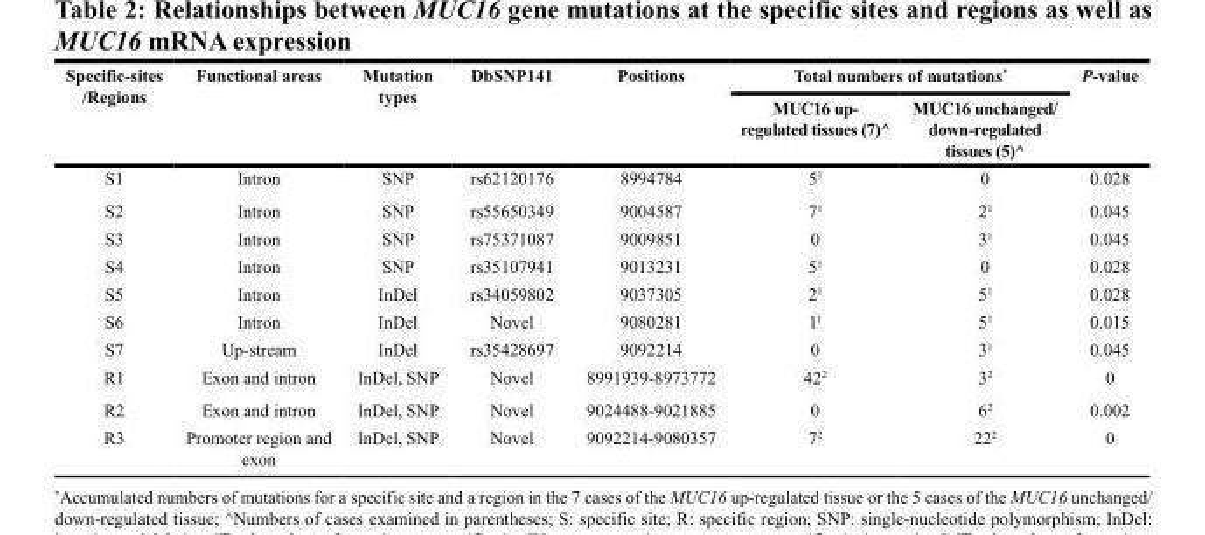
<table><thead><tr><td rowspan="2">Specific-sites /Regions</td><td rowspan="2">Functional areas</td><td rowspan="2">Mutation types</td><td rowspan="2">DbSNP141</td><td rowspan="2">Positions</td><td colspan="2">Total numbers of mutations*</td><td rowspan="2">P-value</td></tr><tr><td>MUC16 up- regulated tissues (7)^</td><td>MUC16 unchanged/ down-regulated tissues (5)^</td></tr></thead><tbody><tr><td>S1</td><td>Intron</td><td>SNP</td><td>rs62120176</td><td>8994784</td><td>5<sup>1</sup></td><td>0</td><td>0.028</td></tr><tr><td>S2</td><td>Intron</td><td>SNP</td><td>rs55650349</td><td>9004587</td><td>7<sup>1</sup></td><td>2<sup>1</sup></td><td>0.045</td></tr><tr><td>S3</td><td>Intron</td><td>SNP</td><td>rs75371087</td><td>9009851</td><td>0</td><td>3<sup>1</sup></td><td>0.045</td></tr><tr><td>S4</td><td>Intron</td><td>SNP</td><td>rs35107941</td><td>9013231</td><td>5<sup>1</sup></td><td>0</td><td>0.028</td></tr><tr><td>S5</td><td>Intron</td><td>InDel</td><td>rs34059802</td><td>9037305</td><td>2<sup>1</sup></td><td>5<sup>1</sup></td><td>0.028</td></tr><tr><td>S6</td><td>Intron</td><td>InDel</td><td>Novel</td><td>9080281</td><td>1<sup>1</sup></td><td>5<sup>1</sup></td><td>0.015</td></tr><tr><td>S7</td><td>Up-stream</td><td>InDel</td><td>rs35428697</td><td>9092214</td><td>0</td><td>3<sup>1</sup></td><td>0.045</td></tr><tr><td>R1</td><td>Exon and intron</td><td>InDel, SNP</td><td>Novel</td><td>8991939-8973772</td><td>42<sup>2</sup></td><td>3<sup>2</sup></td><td>0</td></tr><tr><td>R2</td><td>Exon and intron</td><td>InDel, SNP</td><td>Novel</td><td>9024488-9021885</td><td>0</td><td>6<sup>2</sup></td><td>0.002</td></tr><tr><td>R3</td><td>Promoter region and exon</td><td>InDel, SNP</td><td>Novel</td><td>9092214-9080357</td><td>7<sup>2</sup></td><td>22<sup>2</sup></td><td>0</td></tr></tbody></table>